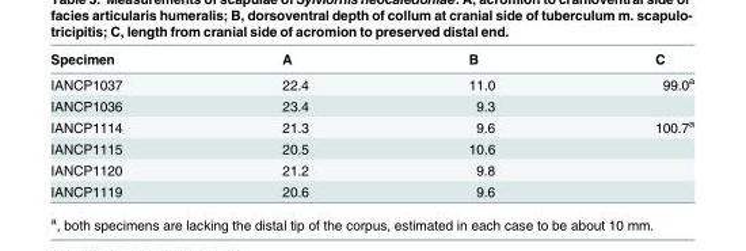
<table><thead><tr><td>Specimen</td><td>A</td><td>B</td><td>C</td></tr></thead><tbody><tr><td>IANCP1037</td><td>22.4</td><td>11.0</td><td>99.0<sup>a</sup></td></tr><tr><td>IANCP1036</td><td>23.4</td><td>9.3</td><td></td></tr><tr><td>IANCP1114</td><td>21.3</td><td>9.6</td><td>100.7<sup>a</sup></td></tr><tr><td>IANCP1115</td><td>20.5</td><td>10.6</td><td></td></tr><tr><td>IANCP1120</td><td>21.2</td><td>9.8</td><td></td></tr><tr><td>IANCP1119</td><td>20.6</td><td>9.6</td><td></td></tr></tbody></table>